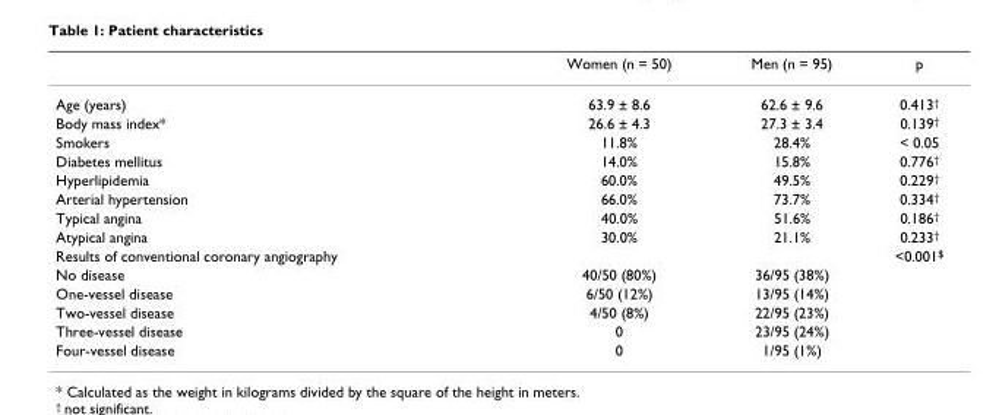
<table><thead><tr><td></td><td>Women (n = 50)</td><td>Men (n = 95)</td><td>p</td></tr></thead><tbody><tr><td>Age (years)</td><td>63.9 ± 8.6</td><td>62.6 ± 9.6</td><td>0.413<sup>†</sup></td></tr><tr><td>Body mass index*</td><td>26.6 ± 4.3</td><td>27.3 ± 3.4</td><td>0.139<sup>†</sup></td></tr><tr><td>Smokers</td><td>11.8%</td><td>28.4%</td><td>&lt; 0.05</td></tr><tr><td>Diabetes mellitus</td><td>14.0%</td><td>15.8%</td><td>0.776<sup>†</sup></td></tr><tr><td>Hyperlipidemia</td><td>60.0%</td><td>49.5%</td><td>0.229<sup>†</sup></td></tr><tr><td>Arterial hypertension</td><td>66.0%</td><td>73.7%</td><td>0.334<sup>†</sup></td></tr><tr><td>Typical angina</td><td>40.0%</td><td>51.6%</td><td>0.186<sup>†</sup></td></tr><tr><td>Atypical angina</td><td>30.0%</td><td>21.1%</td><td>0.233<sup>†</sup></td></tr><tr><td>Results of conventional coronary angiography</td><td></td><td></td><td>&lt;0.001<sup>$</sup></td></tr><tr><td>No disease</td><td>40/50 (80%)</td><td>36/95 (38%)</td><td></td></tr><tr><td>One-vessel disease</td><td>6/50 (12%)</td><td>13/95 (14%)</td><td></td></tr><tr><td>Two-vessel disease</td><td>4/50 (8%)</td><td>22/95 (23%)</td><td></td></tr><tr><td>Three-vessel disease</td><td>0</td><td>23/95 (24%)</td><td></td></tr><tr><td>Four-vessel disease</td><td>0</td><td>1/95 (1%)</td><td></td></tr></tbody></table>